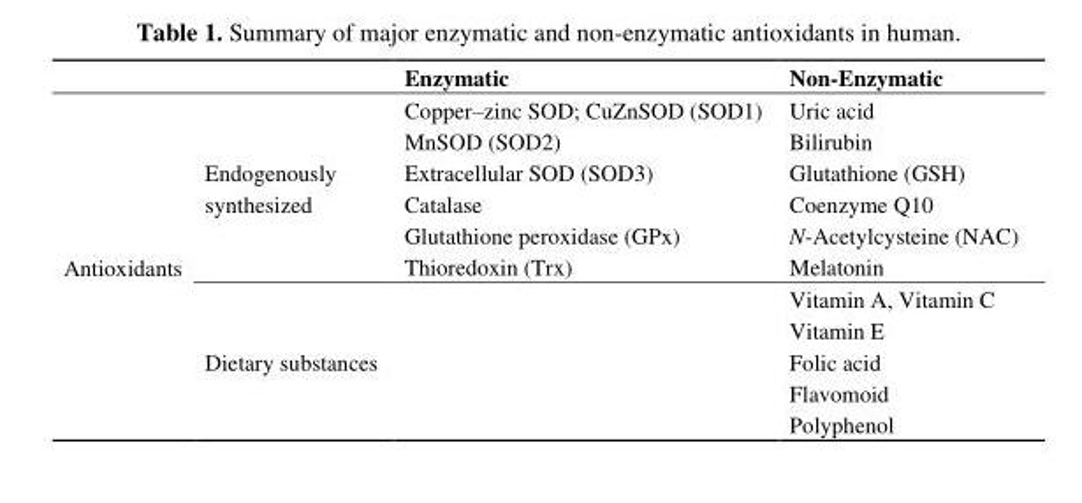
<table><thead><tr><td></td><td></td><td>Enzymatic</td><td>Non-Enzymatic</td></tr></thead><tbody><tr><td rowspan="11">Antioxidants</td><td rowspan="6">Endogenously synthesized</td><td>Copper–zinc SOD; CuZnSOD (SOD1)</td><td>Uric acid</td></tr><tr><td>MnSOD (SOD2)</td><td>Bilirubin</td></tr><tr><td>Extracellular SOD (SOD3)</td><td>Glutathione (GSH)</td></tr><tr><td>Catalase</td><td>Coenzyme Q10</td></tr><tr><td>Glutathione peroxidase (GPx)</td><td>N-Acetylcysteine (NAC)</td></tr><tr><td>Thioredoxin (Trx)</td><td>Melatonin</td></tr><tr><td rowspan="5">Dietary substances</td><td rowspan="5"></td><td>Vitamin A, Vitamin C</td></tr><tr><td>Vitamin E</td></tr><tr><td>Folic acid</td></tr><tr><td>Flavomoid</td></tr><tr><td>Polyphenol</td></tr></tbody></table>